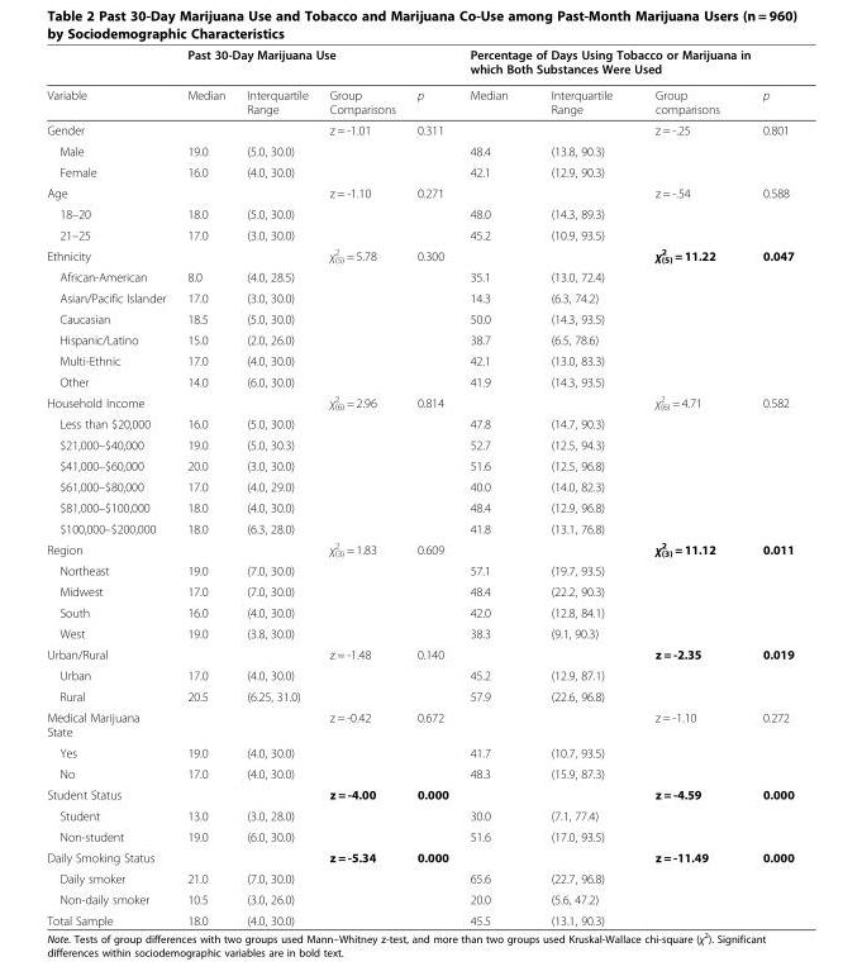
<table><thead><tr><td rowspan="2">Variable</td><td colspan="4">Past 30-Day Marijuana Use</td><td colspan="4">Percentage of Days Using Tobacco or Marijuana in which Both Substances Were Used</td></tr><tr><td>Median</td><td>Interquartile Range</td><td>Group Comparisons</td><td>p</td><td>Median</td><td>Interquartile Range</td><td>Group comparisons</td><td>p</td></tr></thead><tbody><tr><td>Gender</td><td></td><td></td><td>z = -1.01</td><td>0.311</td><td></td><td></td><td>z = -.25</td><td>0.801</td></tr><tr><td>Male</td><td>19.0</td><td>(5.0, 30.0)</td><td></td><td></td><td>48.4</td><td>(13.8, 90.3)</td><td></td><td></td></tr><tr><td>Female</td><td>16.0</td><td>(4.0, 30.0)</td><td></td><td></td><td>42.1</td><td>(12.9, 90.3)</td><td></td><td></td></tr><tr><td>Age</td><td></td><td></td><td>z = -1.10</td><td>0.271</td><td></td><td></td><td>z = -.54</td><td>0.588</td></tr><tr><td>18–20</td><td>18.0</td><td>(5.0, 30.0)</td><td></td><td></td><td>48.0</td><td>(14.3, 89.3)</td><td></td><td></td></tr><tr><td>21–25</td><td>17.0</td><td>(3.0, 30.0)</td><td></td><td></td><td>45.2</td><td>(10.9, 93.5)</td><td></td><td></td></tr><tr><td>Ethnicity</td><td></td><td></td><td>χ<sub>(5)</sub> <sup>2</sup> = 5.78</td><td>0.300</td><td></td><td></td><td>χ<sup>2</sup> <sub>(5)</sub> = 11.22</td><td>0.047</td></tr><tr><td>African-American</td><td>8.0</td><td>(4.0, 28.5)</td><td></td><td></td><td>35.1</td><td>(13.0, 72.4)</td><td></td><td></td></tr><tr><td>Asian/Pacific Islander</td><td>17.0</td><td>(3.0, 30.0)</td><td></td><td></td><td>14.3</td><td>(6.3, 74.2)</td><td></td><td></td></tr><tr><td>Caucasian</td><td>18.5</td><td>(5.0, 30.0)</td><td></td><td></td><td>50.0</td><td>(14.3, 93.5)</td><td></td><td></td></tr><tr><td>Hispanic/Latino</td><td>15.0</td><td>(2.0, 26.0)</td><td></td><td></td><td>38.7</td><td>(6.5, 78.6)</td><td></td><td></td></tr><tr><td>Multi-Ethnic</td><td>17.0</td><td>(4.0, 30.0)</td><td></td><td></td><td>42.1</td><td>(13.0, 83.3)</td><td></td><td></td></tr><tr><td>Other</td><td>14.0</td><td>(6.0, 30.0)</td><td></td><td></td><td>41.9</td><td>(14.3, 93.5)</td><td></td><td></td></tr><tr><td>Household Income</td><td></td><td></td><td>χ<sub>(6)</sub> <sup>2</sup> = 2.96</td><td>0.814</td><td></td><td></td><td>χ<sub>(6)</sub> <sup>2</sup> = 4.71</td><td>0.582</td></tr><tr><td>Less than $20,000</td><td>16.0</td><td>(5.0, 30.0)</td><td></td><td></td><td>47.8</td><td>(14.7, 90.3)</td><td></td><td></td></tr><tr><td>$21,000–$40,000</td><td>19.0</td><td>(5.0, 30.3)</td><td></td><td></td><td>52.7</td><td>(12.5, 94.3)</td><td></td><td></td></tr><tr><td>$41,000–$60,000</td><td>20.0</td><td>(3.0, 30.0)</td><td></td><td></td><td>51.6</td><td>(12.5, 96.8)</td><td></td><td></td></tr><tr><td>$61,000–$80,000</td><td>17.0</td><td>(4.0, 29.0)</td><td></td><td></td><td>40.0</td><td>(14.0, 82.3)</td><td></td><td></td></tr><tr><td>$81,000–$100,000</td><td>18.0</td><td>(4.0, 30.0)</td><td></td><td></td><td>48.4</td><td>(12.9, 96.8)</td><td></td><td></td></tr><tr><td>$100,000–$200,000</td><td>18.0</td><td>(6.3, 28.0)</td><td></td><td></td><td>41.8</td><td>(13.1, 76.8)</td><td></td><td></td></tr><tr><td>Region</td><td></td><td></td><td>χ<sub>(3)</sub> <sup>2</sup> = 1.83</td><td>0.609</td><td></td><td></td><td>χ<sup>2</sup> <sub>(3)</sub> = 11.12</td><td>0.011</td></tr><tr><td>Northeast</td><td>19.0</td><td>(7.0, 30.0)</td><td></td><td></td><td>57.1</td><td>(19.7, 93.5)</td><td></td><td></td></tr><tr><td>Midwest</td><td>17.0</td><td>(7.0, 30.0)</td><td></td><td></td><td>48.4</td><td>(22.2, 90.3)</td><td></td><td></td></tr><tr><td>South</td><td>16.0</td><td>(4.0, 30.0)</td><td></td><td></td><td>42.0</td><td>(12.8, 84.1)</td><td></td><td></td></tr><tr><td>West</td><td>19.0</td><td>(3.8, 30.0)</td><td></td><td></td><td>38.3</td><td>(9.1, 90.3)</td><td></td><td></td></tr><tr><td>Urban/Rural</td><td></td><td></td><td>z = -1.48</td><td>0.140</td><td></td><td></td><td>z = -2.35</td><td>0.019</td></tr><tr><td>Urban</td><td>17.0</td><td>(4.0, 30.0)</td><td></td><td></td><td>45.2</td><td>(12.9, 87.1)</td><td></td><td></td></tr><tr><td>Rural</td><td>20.5</td><td>(6.25, 31.0)</td><td></td><td></td><td>57.9</td><td>(22.6, 96.8)</td><td></td><td></td></tr><tr><td>Medical Marijuana State</td><td></td><td></td><td>z = -0.42</td><td>0.672</td><td></td><td></td><td>z = -1.10</td><td>0.272</td></tr><tr><td>Yes</td><td>19.0</td><td>(4.0, 30.0)</td><td></td><td></td><td>41.7</td><td>(10.7, 93.5)</td><td></td><td></td></tr><tr><td>No</td><td>17.0</td><td>(4.0, 30.0)</td><td></td><td></td><td>48.3</td><td>(15.9, 87.3)</td><td></td><td></td></tr><tr><td>Student Status</td><td></td><td></td><td>z = -4.00</td><td>0.000</td><td></td><td></td><td>z = -4.59</td><td>0.000</td></tr><tr><td>Student</td><td>13.0</td><td>(3.0, 28.0)</td><td></td><td></td><td>30.0</td><td>(7.1, 77.4)</td><td></td><td></td></tr><tr><td>Non-student</td><td>19.0</td><td>(6.0, 30.0)</td><td></td><td></td><td>51.6</td><td>(17.0, 93.5)</td><td></td><td></td></tr><tr><td>Daily Smoking Status</td><td></td><td></td><td>z = -5.34</td><td>0.000</td><td></td><td></td><td>z = -11.49</td><td>0.000</td></tr><tr><td>Daily smoker</td><td>21.0</td><td>(7.0, 30.0)</td><td></td><td></td><td>65.6</td><td>(22.7, 96.8)</td><td></td><td></td></tr><tr><td>Non-daily smoker</td><td>10.5</td><td>(3.0, 26.0)</td><td></td><td></td><td>20.0</td><td>(5.6, 47.2)</td><td></td><td></td></tr><tr><td>Total Sample</td><td>18.0</td><td>(4.0, 30.0)</td><td></td><td></td><td>45.5</td><td>(13.1, 90.3)</td><td></td><td></td></tr></tbody></table>